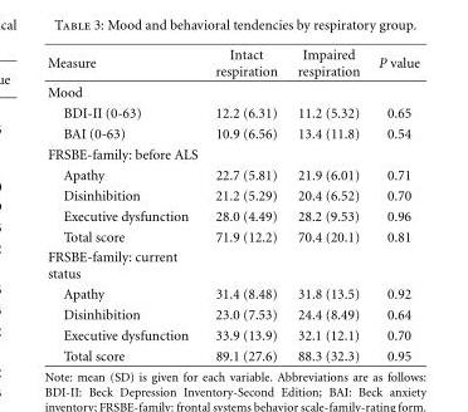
<table><thead><tr><td>Measure</td><td>Intact respiration</td><td>Impaired respiration</td><td>P value</td></tr></thead><tbody><tr><td colspan="4">Mood</td></tr><tr><td>BDI-II (0-63)</td><td>12.2 (6.31)</td><td>11.2 (5.32)</td><td>0.65</td></tr><tr><td>BAI (0-63)</td><td>10.9 (6.56)</td><td>13.4 (11.8)</td><td>0.54</td></tr><tr><td colspan="4">FRSBE-family: before ALS</td></tr><tr><td>Apathy</td><td>22.7 (5.81)</td><td>21.9 (6.01)</td><td>0.71</td></tr><tr><td>Disinhibition</td><td>21.2 (5.29)</td><td>20.4 (6.52)</td><td>0.70</td></tr><tr><td>Executive dysfunction</td><td>28.0 (4.49)</td><td>28.2 (9.53)</td><td>0.96</td></tr><tr><td>Total score</td><td>71.9 (12.2)</td><td>70.4 (20.1)</td><td>0.81</td></tr><tr><td colspan="4">FRSBE-family: current status</td></tr><tr><td>Apathy</td><td>31.4 (8.48)</td><td>31.8 (13.5)</td><td>0.92</td></tr><tr><td>Disinhibition</td><td>23.0 (7.53)</td><td>24.4 (8.49)</td><td>0.64</td></tr><tr><td>Executive dysfunction</td><td>33.9 (13.9)</td><td>32.1 (12.1)</td><td>0.70</td></tr><tr><td>Total score</td><td>89.1 (27.6)</td><td>88.3 (32.3)</td><td>0.95</td></tr></tbody></table>